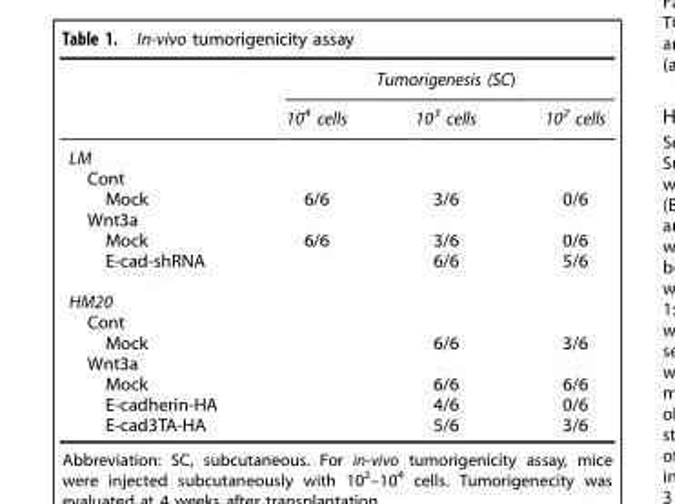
<table><thead><tr><td rowspan="2"></td><td colspan="3">Tumorigenesis (SC)</td></tr><tr><td>10<sup>4</sup> cells</td><td>10<sup>3</sup> cells</td><td>10<sup>2</sup> cells</td></tr></thead><tbody><tr><td colspan="4">LM</td></tr><tr><td colspan="4">Cont</td></tr><tr><td>Mock</td><td>6/6</td><td>3/6</td><td>0/6</td></tr><tr><td colspan="4">Wnt3a</td></tr><tr><td>Mock</td><td>6/6</td><td>3/6</td><td>0/6</td></tr><tr><td>E-cad-shRNA</td><td></td><td>6/6</td><td>5/6</td></tr><tr><td colspan="4">HM20</td></tr><tr><td colspan="4">Cont</td></tr><tr><td>Mock</td><td></td><td>6/6</td><td>3/6</td></tr><tr><td colspan="4">Wnt3a</td></tr><tr><td>Mock</td><td></td><td>6/6</td><td>6/6</td></tr><tr><td>E-cadherin-HA</td><td></td><td>4/6</td><td>0/6</td></tr><tr><td>E-cad3TA-HA</td><td></td><td>5/6</td><td>3/6</td></tr></tbody></table>